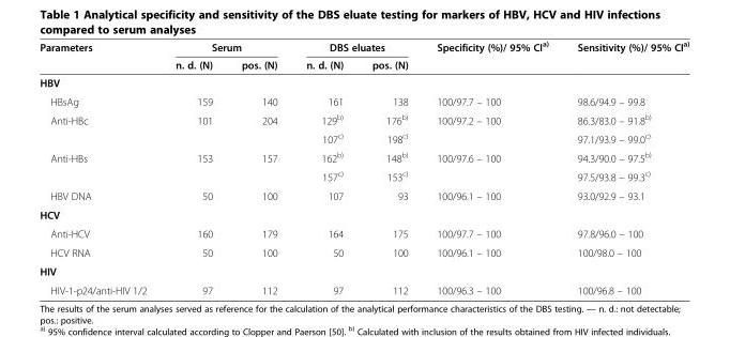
<table><thead><tr><td rowspan="2">Parameters</td><td colspan="2">Serum</td><td colspan="2">DBS eluates</td><td rowspan="2">Specificity (%)/ 95% CI<sup>a)</sup></td><td rowspan="2">Sensitivity (%)/ 95% CI<sup>a)</sup></td></tr><tr><td>n. d. (N)</td><td>pos. (N)</td><td>n. d. (N)</td><td>pos. (N)</td></tr></thead><tbody><tr><td colspan="7">HBV</td></tr><tr><td>HBsAg</td><td>159</td><td>140</td><td>161</td><td>138</td><td>100/97.7 – 100</td><td>98.6/94.9 – 99.8</td></tr><tr><td rowspan="2">Anti-HBc</td><td rowspan="2">101</td><td rowspan="2">204</td><td>129<sup>b)</sup></td><td>176<sup>b)</sup></td><td rowspan="2">100/97.2 – 100</td><td>86.3/83.0 – 91.8<sup>b)</sup></td></tr><tr><td>107<sup>c)</sup></td><td>198<sup>c)</sup></td><td>97.1/93.9 – 99.0<sup>c)</sup></td></tr><tr><td rowspan="2">Anti-HBs</td><td rowspan="2">153</td><td rowspan="2">157</td><td>162<sup>b)</sup></td><td>148<sup>b)</sup></td><td rowspan="2">100/97.6 – 100</td><td>94.3/90.0 – 97.5<sup>b)</sup></td></tr><tr><td>157<sup>c)</sup></td><td>153<sup>c)</sup></td><td>97.5/93.8 – 99.3<sup>c)</sup></td></tr><tr><td>HBV DNA</td><td>50</td><td>100</td><td>107</td><td>93</td><td>100/96.1 – 100</td><td>93.0/92.9 – 93.1</td></tr><tr><td colspan="7">HCV</td></tr><tr><td>Anti-HCV</td><td>160</td><td>179</td><td>164</td><td>175</td><td>100/97.7 – 100</td><td>97.8/96.0 – 100</td></tr><tr><td>HCV RNA</td><td>50</td><td>100</td><td>50</td><td>100</td><td>100/96.1 – 100</td><td>100/98.0 – 100</td></tr><tr><td colspan="7">HIV</td></tr><tr><td>HIV-1-p24/anti-HIV 1/2</td><td>97</td><td>112</td><td>97</td><td>112</td><td>100/96.3 – 100</td><td>100/96.8 – 100</td></tr></tbody></table>